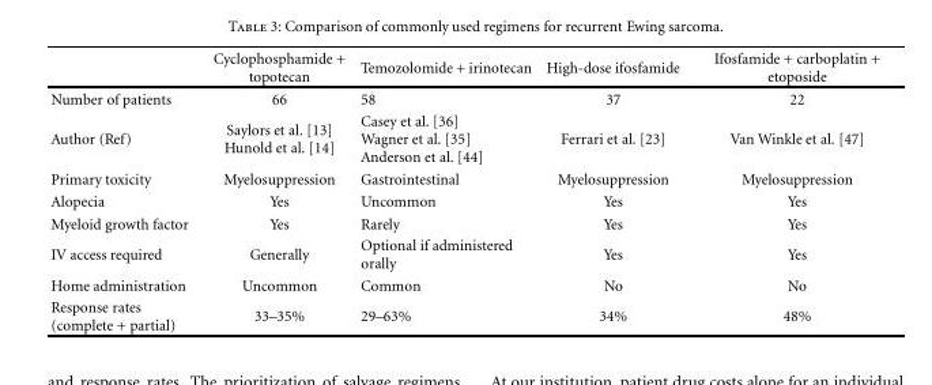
<table><thead><tr><td></td><td>Cyclophosphamide + topotecan</td><td>Temozolomide + irinotecan</td><td>High-dose ifosfamide</td><td>Ifosfamide + carboplatin + etoposide</td></tr></thead><tbody><tr><td>Number of patients</td><td>66</td><td>58</td><td>37</td><td>22</td></tr><tr><td>Author (Ref)</td><td>Saylors et al. [13] Hunold et al. [14]</td><td>Casey et al. [36] Wagner et al. [35] Anderson et al. [44]</td><td>Ferrari et al. [23]</td><td>Van Winkle et al. [47]</td></tr><tr><td>Primary toxicity</td><td>Myelosuppression</td><td>Gastrointestinal</td><td>Myelosuppression</td><td>Myelosuppression</td></tr><tr><td>Alopecia</td><td>Yes</td><td>Uncommon</td><td>Yes</td><td>Yes</td></tr><tr><td>Myeloid growth factor</td><td>Yes</td><td>Rarely</td><td>Yes</td><td>Yes</td></tr><tr><td>IV access required</td><td>Generally</td><td>Optional if administered orally</td><td>Yes</td><td>Yes</td></tr><tr><td>Home administration</td><td>Uncommon</td><td>Common</td><td>No</td><td>No</td></tr><tr><td>Response rates (complete + partial)</td><td>33–35%</td><td>29–63%</td><td>34%</td><td>48%</td></tr></tbody></table>